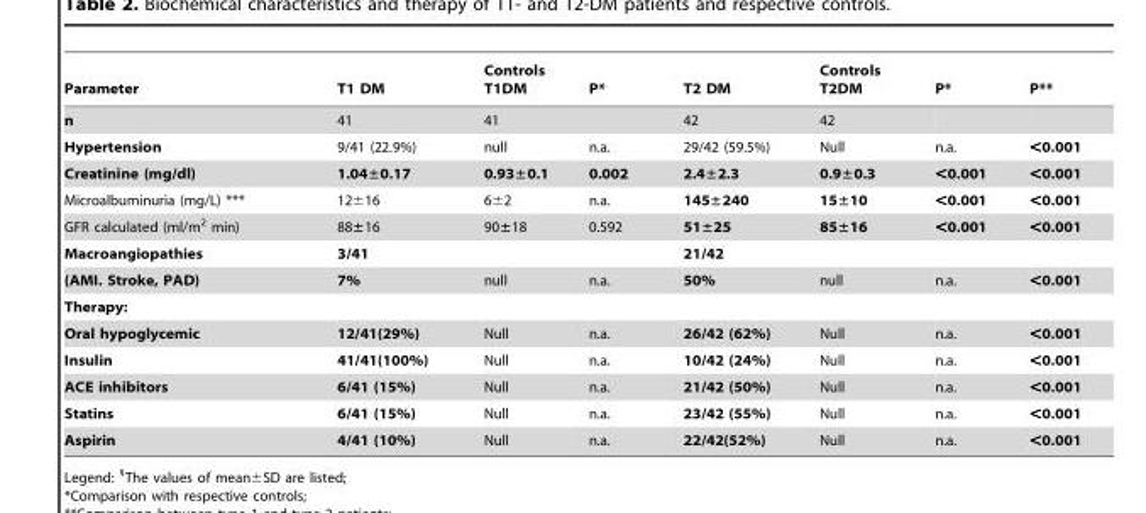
<table><thead><tr><td>Parameter</td><td>T1 DM</td><td>Controls T1DM</td><td>P*</td><td>T2 DM</td><td>Controls T2DM</td><td>P*</td><td>P**</td></tr></thead><tbody><tr><td>n</td><td>41</td><td>41</td><td></td><td>42</td><td>42</td><td></td><td></td></tr><tr><td>Hypertension</td><td>9/41 (22.9%)</td><td>null</td><td>n.a.</td><td>29/42 (59.5%)</td><td>Null</td><td>n.a.</td><td>&lt;0.001</td></tr><tr><td>Creatinine (mg/dl)</td><td>1.04±0.17</td><td>0.93±0.1</td><td>0.002</td><td>2.4±2.3</td><td>0.9±0.3</td><td>&lt;0.001</td><td>&lt;0.001</td></tr><tr><td>Microalbuminuria (mg/L) ***</td><td>12±16</td><td>6±2</td><td>n.a.</td><td>145±240</td><td>15±10</td><td>&lt;0.001</td><td>&lt;0.001</td></tr><tr><td>GFR calculated (ml/m<sup>2</sup> min)</td><td>88±16</td><td>90±18</td><td>0.592</td><td>51±25</td><td>85±16</td><td>&lt;0.001</td><td>&lt;0.001</td></tr><tr><td>Macroangiopathies</td><td>3/41</td><td></td><td></td><td>21/42</td><td></td><td></td><td></td></tr><tr><td>(AMI. Stroke, PAD)</td><td>7%</td><td>null</td><td>n.a.</td><td>50%</td><td>null</td><td>n.a.</td><td>&lt;0.001</td></tr><tr><td colspan="8">Therapy:</td></tr><tr><td>Oral hypoglycemic</td><td>12/41(29%)</td><td>Null</td><td>n.a.</td><td>26/42 (62%)</td><td>Null</td><td>n.a.</td><td>&lt;0.001</td></tr><tr><td>Insulin</td><td>41/41(100%)</td><td>Null</td><td>n.a.</td><td>10/42 (24%)</td><td>Null</td><td>n.a.</td><td>&lt;0.001</td></tr><tr><td>ACE inhibitors</td><td>6/41 (15%)</td><td>Null</td><td>n.a.</td><td>21/42 (50%)</td><td>Null</td><td>n.a.</td><td>&lt;0.001</td></tr><tr><td>Statins</td><td>6/41 (15%)</td><td>Null</td><td>n.a.</td><td>23/42 (55%)</td><td>Null</td><td>n.a.</td><td>&lt;0.001</td></tr><tr><td>Aspirin</td><td>4/41 (10%)</td><td>Null</td><td>n.a.</td><td>22/42(52%)</td><td>Null</td><td>n.a.</td><td>&lt;0.001</td></tr></tbody></table>